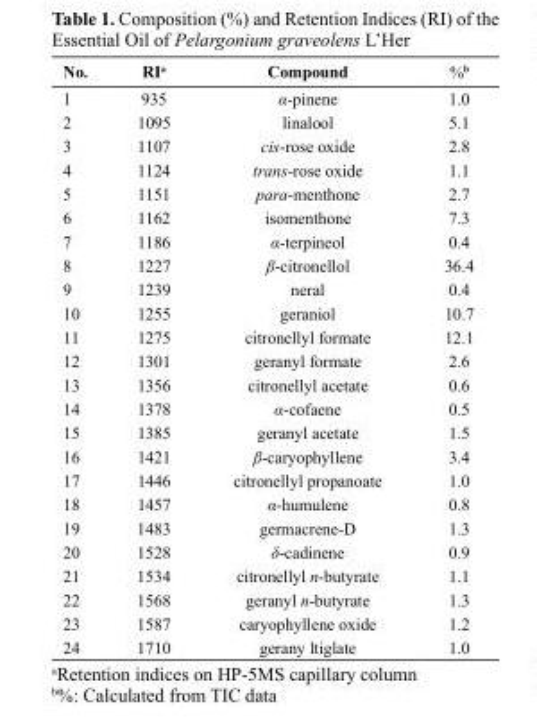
<table><thead><tr><td>No.</td><td>RI<sup>a</sup></td><td>Compound</td><td>%<sup>b</sup></td></tr></thead><tbody><tr><td>1</td><td>935</td><td>α-pinene</td><td>1.0</td></tr><tr><td>2</td><td>1095</td><td>linalool</td><td>5.1</td></tr><tr><td>3</td><td>1107</td><td>cis-rose oxide</td><td>2.8</td></tr><tr><td>4</td><td>1124</td><td>trans-rose oxide</td><td>1.1</td></tr><tr><td>5</td><td>1151</td><td>para-menthone</td><td>2.7</td></tr><tr><td>6</td><td>1162</td><td>isomenthone</td><td>7.3</td></tr><tr><td>7</td><td>1186</td><td>α-terpineol</td><td>0.4</td></tr><tr><td>8</td><td>1227</td><td>β-citronellol</td><td>36.4</td></tr><tr><td>9</td><td>1239</td><td>neral</td><td>0.4</td></tr><tr><td>10</td><td>1255</td><td>geraniol</td><td>10.7</td></tr><tr><td>11</td><td>1275</td><td>citronellyl formate</td><td>12.1</td></tr><tr><td>12</td><td>1301</td><td>geranyl formate</td><td>2.6</td></tr><tr><td>13</td><td>1356</td><td>citronellyl acetate</td><td>0.6</td></tr><tr><td>14</td><td>1378</td><td>α-cofaene</td><td>0.5</td></tr><tr><td>15</td><td>1385</td><td>geranyl acetate</td><td>1.5</td></tr><tr><td>16</td><td>1421</td><td>β-caryophyllene</td><td>3.4</td></tr><tr><td>17</td><td>1446</td><td>citronellyl propanoate</td><td>1.0</td></tr><tr><td>18</td><td>1457</td><td>α-humulene</td><td>0.8</td></tr><tr><td>19</td><td>1483</td><td>germacrene-D</td><td>1.3</td></tr><tr><td>20</td><td>1528</td><td>δ-cadinene</td><td>0.9</td></tr><tr><td>21</td><td>1534</td><td>citronellyl n-butyrate</td><td>1.1</td></tr><tr><td>22</td><td>1568</td><td>geranyl n-butyrate</td><td>1.3</td></tr><tr><td>23</td><td>1587</td><td>caryophyllene oxide</td><td>1.2</td></tr><tr><td>24</td><td>1710</td><td>gerany ltiglate</td><td>1.0</td></tr></tbody></table>